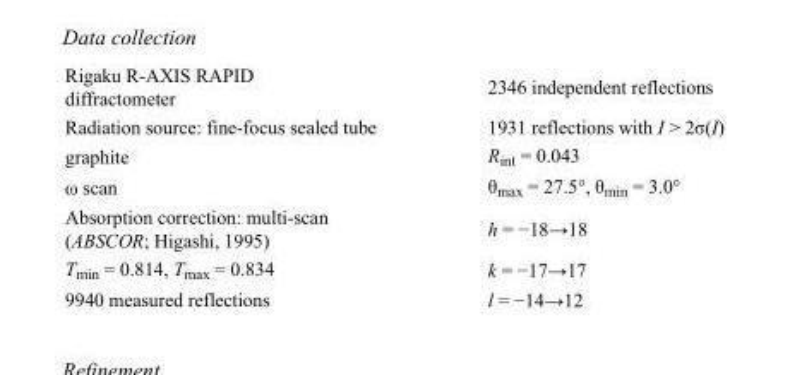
<table><tbody><tr><td>Rigaku R-AXIS RAPID diffractometer</td><td>2346 independent reflections</td></tr><tr><td>Radiation source: fine-focus sealed tube</td><td>1931 reflections with I &gt; 2σ(I)</td></tr><tr><td>graphite</td><td>R<sub>int</sub> = 0.043</td></tr><tr><td>ω scan</td><td>θ<sub>max</sub> = 27.5°, θ<sub>min</sub> = 3.0°</td></tr><tr><td>Absorption correction: multi-scan (ABSCOR; Higashi, 1995)</td><td>h = −18→18</td></tr><tr><td>T<sub>min</sub> = 0.814, T<sub>max</sub> = 0.834</td><td>k = −17→17</td></tr><tr><td>9940 measured reflections</td><td>l = −14→12</td></tr></tbody></table>